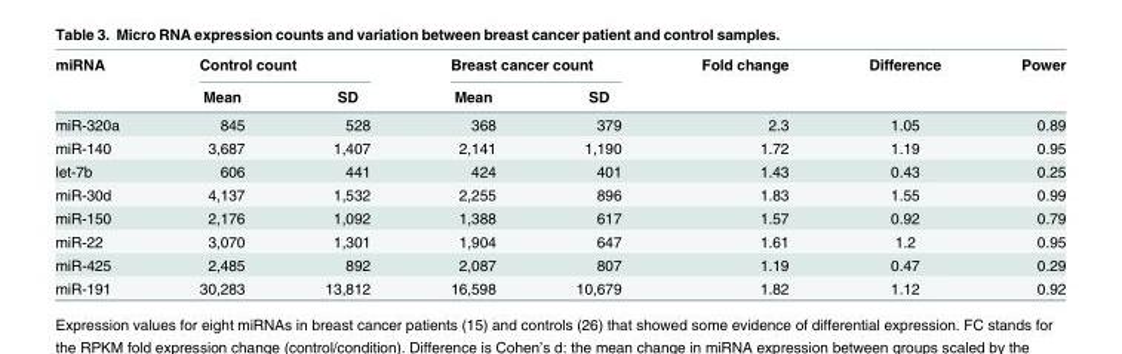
<table><thead><tr><td rowspan="2">miRNA</td><td colspan="2">Control count</td><td colspan="2">Breast cancer count</td><td rowspan="2">Fold change</td><td rowspan="2">Difference</td><td rowspan="2">Power</td></tr><tr><td>Mean</td><td>SD</td><td>Mean</td><td>SD</td></tr></thead><tbody><tr><td>miR-320a</td><td>845</td><td>528</td><td>368</td><td>379</td><td>2.3</td><td>1.05</td><td>0.89</td></tr><tr><td>miR-140</td><td>3,687</td><td>1,407</td><td>2,141</td><td>1,190</td><td>1.72</td><td>1.19</td><td>0.95</td></tr><tr><td>let-7b</td><td>606</td><td>441</td><td>424</td><td>401</td><td>1.43</td><td>0.43</td><td>0.25</td></tr><tr><td>miR-30d</td><td>4,137</td><td>1,532</td><td>2,255</td><td>896</td><td>1.83</td><td>1.55</td><td>0.99</td></tr><tr><td>miR-150</td><td>2,176</td><td>1,092</td><td>1,388</td><td>617</td><td>1.57</td><td>0.92</td><td>0.79</td></tr><tr><td>miR-22</td><td>3,070</td><td>1,301</td><td>1,904</td><td>647</td><td>1.61</td><td>1.2</td><td>0.95</td></tr><tr><td>miR-425</td><td>2,485</td><td>892</td><td>2,087</td><td>807</td><td>1.19</td><td>0.47</td><td>0.29</td></tr><tr><td>miR-191</td><td>30,283</td><td>13,812</td><td>16,598</td><td>10,679</td><td>1.82</td><td>1.12</td><td>0.92</td></tr></tbody></table>